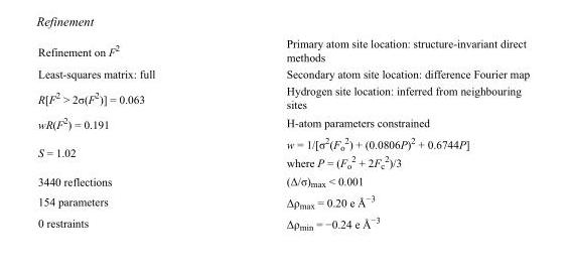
<table><tbody><tr><td>Refinement on F<sup>2</sup></td><td>Primary atom site location: structure-invariant direct methods</td></tr><tr><td>Least-squares matrix: full</td><td>Secondary atom site location: difference Fourier map</td></tr><tr><td>R[F<sup>2</sup> &gt; 2σ(F<sup>2</sup>)] = 0.063</td><td>Hydrogen site location: inferred from neighbouring sites</td></tr><tr><td>wR(F<sup>2</sup>) = 0.191</td><td>H-atom parameters constrained</td></tr><tr><td>S = 1.02</td><td>w = 1/[σ<sup>2</sup>(F<sub>o</sub> <sup>2</sup>) + (0.0806P)<sup>2</sup> + 0.6744P] where P = (F<sub>o</sub> <sup>2</sup> + 2F<sub>c</sub> <sup>2</sup>)/3</td></tr><tr><td>3440 reflections</td><td>(Δ/σ)<sub>max</sub> &lt; 0.001</td></tr><tr><td>154 parameters</td><td>Δρ<sub>max</sub> = 0.20 e Å<sup>−3</sup></td></tr><tr><td>0 restraints</td><td>Δρ<sub>min</sub> = −0.24 e Å<sup>−3</sup></td></tr></tbody></table>